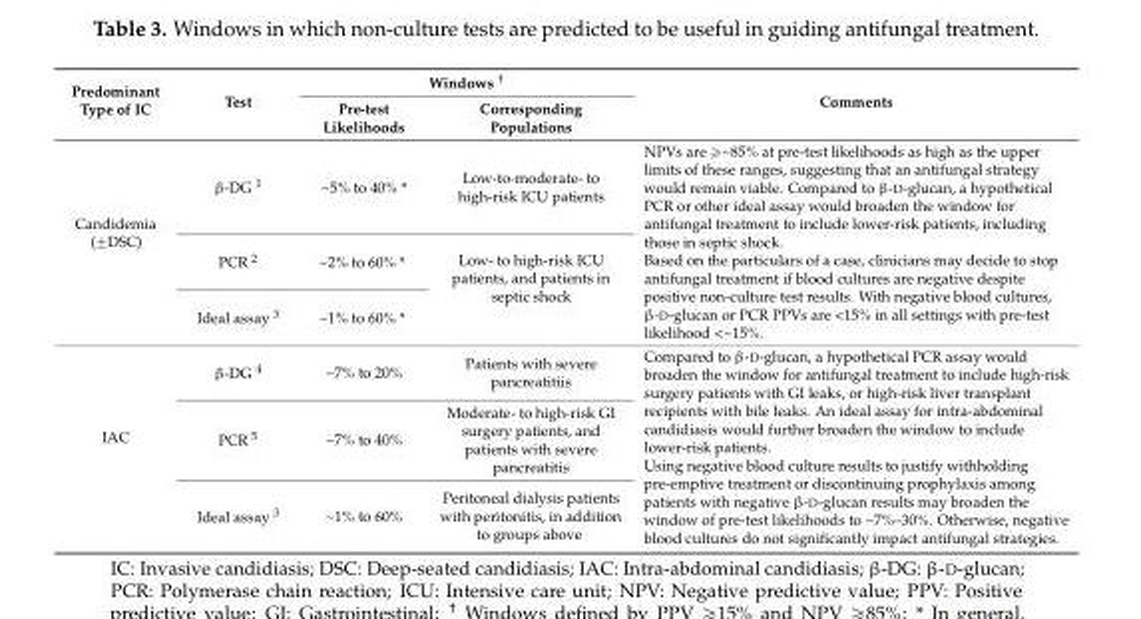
<table><thead><tr><td rowspan="2">Predominant Type of IC</td><td rowspan="2">Test</td><td colspan="2">Windows <sup>†</sup></td><td rowspan="2">Comments</td></tr><tr><td>Pre-test Likelihoods</td><td>Corresponding Populations</td></tr></thead><tbody><tr><td rowspan="3">Candidemia (˘DSC)</td><td>β-DG <sup>1</sup></td><td>~5% to 40% *</td><td>Low-to-moderate- to high-risk ICU patients</td><td rowspan="3">NPVs are ě~85% at pre-test likelihoods as high as the upper limits of these ranges, suggesting that an antifungal strategy would remain viable. Compared to β-D-glucan, a hypothetical PCR or other ideal assay would broaden the window for antifungal treatment to include lower-risk patients, including those in septic shock. Based on the particulars of a case, clinicians may decide to stop antifungal treatment if blood cultures are negative despite positive non-culture test results. With negative blood cultures, β-D-glucan or PCR PPVs are &lt;15% in all settings with pre-test likelihood &lt;~15%.</td></tr><tr><td>PCR <sup>2</sup></td><td>~2% to 60% *</td><td rowspan="2">Low- to high-risk ICU patients, and patients in septic shock</td></tr><tr><td>Ideal assay <sup>3</sup></td><td>~1% to 60% *</td></tr><tr><td rowspan="3">IAC</td><td>β-DG <sup>4</sup></td><td>~7% to 20%</td><td>Patients with severe pancreatitiis</td><td rowspan="3">Compared to β-D-glucan, a hypothetical PCR assay would broaden the window for antifungal treatment to include high-risk surgery patients with GI leaks, or high-risk liver transplant recipients with bile leaks. An ideal assay for intra-abdominal candidiasis would further broaden the window to include lower-risk patients. Using negative blood culture results to justify withholding pre-emptive treatment or discontinuing prophylaxis among patients with negative β-D-glucan results may broaden the window of pre-test likelihoods to ~7%–30%. Otherwise, negative blood cultures do not significantly impact antifungal strategies.</td></tr><tr><td>PCR <sup>5</sup></td><td>~7% to 40%</td><td>Moderate- to high-risk GI surgery patients, and patients with severe pancreatitis</td></tr><tr><td>Ideal assay <sup>3</sup></td><td>~1% to 60%</td><td>Peritoneal dialysis patients with peritonitis, in addition to groups above</td></tr></tbody></table>